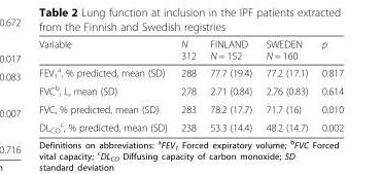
<table><thead><tr><td>Variable</td><td>N 312</td><td>FINLAND N = 152</td><td>SWEDEN N = 160</td><td>p</td></tr></thead><tbody><tr><td>FEV<sub>1</sub> <sup>a</sup>, % predicted, mean (SD)</td><td>288</td><td>77.7 (19.4)</td><td>77.2 (17.1)</td><td>0.817</td></tr><tr><td>FVC<sup>b</sup>, L, mean (SD)</td><td>278</td><td>2.71 (0.84)</td><td>2.76 (0.83)</td><td>0.614</td></tr><tr><td>FVC, % predicted, mean (SD)</td><td>283</td><td>78.2 (17.7)</td><td>71.7 (16)</td><td>0.010</td></tr><tr><td>DL<sub>CO</sub> <sup>c</sup>, % predicted, mean (SD)</td><td>238</td><td>53.3 (14.4)</td><td>48.2 (14.7)</td><td>0.002</td></tr></tbody></table>